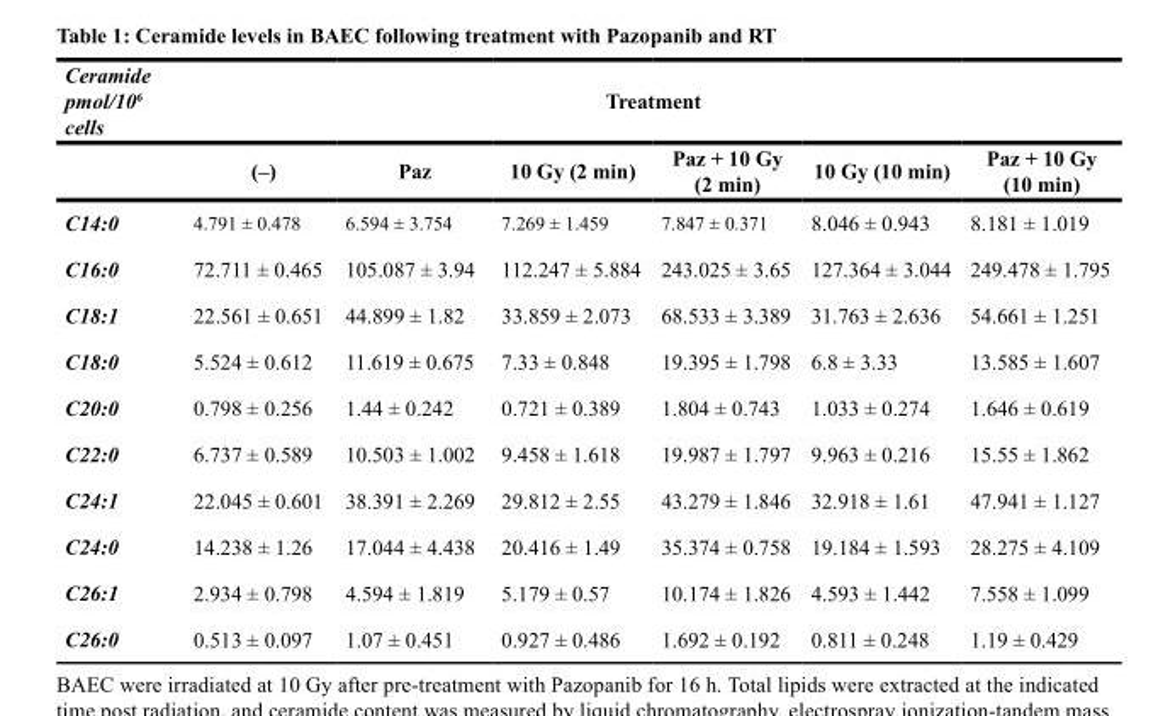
<table><thead><tr><td rowspan="2">Ceramide pmol/10<sup>6</sup> cells</td><td colspan="6">Treatment</td></tr><tr><td>(–)</td><td>Paz</td><td>10 Gy (2 min)</td><td>Paz + 10 Gy (2 min)</td><td>10 Gy (10 min)</td><td>Paz + 10 Gy (10 min)</td></tr></thead><tbody><tr><td>C14:0</td><td>4.791 ± 0.478</td><td>6.594 ± 3.754</td><td>7.269 ± 1.459</td><td>7.847 ± 0.371</td><td>8.046 ± 0.943</td><td>8.181 ± 1.019</td></tr><tr><td>C16:0</td><td>72.711 ± 0.465</td><td>105.087 ± 3.94</td><td>112.247 ± 5.884</td><td>243.025 ± 3.65</td><td>127.364 ± 3.044</td><td>249.478 ± 1.795</td></tr><tr><td>C18:1</td><td>22.561 ± 0.651</td><td>44.899 ± 1.82</td><td>33.859 ± 2.073</td><td>68.533 ± 3.389</td><td>31.763 ± 2.636</td><td>54.661 ± 1.251</td></tr><tr><td>C18:0</td><td>5.524 ± 0.612</td><td>11.619 ± 0.675</td><td>7.33 ± 0.848</td><td>19.395 ± 1.798</td><td>6.8 ± 3.33</td><td>13.585 ± 1.607</td></tr><tr><td>C20:0</td><td>0.798 ± 0.256</td><td>1.44 ± 0.242</td><td>0.721 ± 0.389</td><td>1.804 ± 0.743</td><td>1.033 ± 0.274</td><td>1.646 ± 0.619</td></tr><tr><td>C22:0</td><td>6.737 ± 0.589</td><td>10.503 ± 1.002</td><td>9.458 ± 1.618</td><td>19.987 ± 1.797</td><td>9.963 ± 0.216</td><td>15.55 ± 1.862</td></tr><tr><td>C24:1</td><td>22.045 ± 0.601</td><td>38.391 ± 2.269</td><td>29.812 ± 2.55</td><td>43.279 ± 1.846</td><td>32.918 ± 1.61</td><td>47.941 ± 1.127</td></tr><tr><td>C24:0</td><td>14.238 ± 1.26</td><td>17.044 ± 4.438</td><td>20.416 ± 1.49</td><td>35.374 ± 0.758</td><td>19.184 ± 1.593</td><td>28.275 ± 4.109</td></tr><tr><td>C26:1</td><td>2.934 ± 0.798</td><td>4.594 ± 1.819</td><td>5.179 ± 0.57</td><td>10.174 ± 1.826</td><td>4.593 ± 1.442</td><td>7.558 ± 1.099</td></tr><tr><td>C26:0</td><td>0.513 ± 0.097</td><td>1.07 ± 0.451</td><td>0.927 ± 0.486</td><td>1.692 ± 0.192</td><td>0.811 ± 0.248</td><td>1.19 ± 0.429</td></tr></tbody></table>